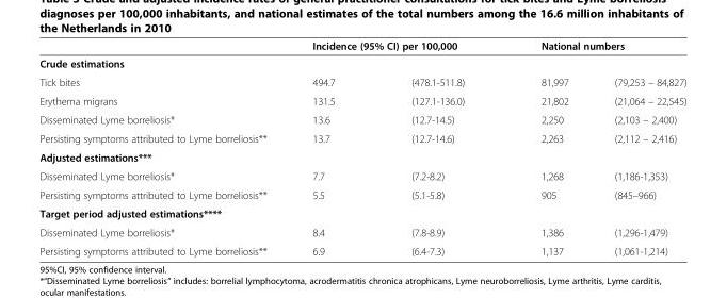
<table><thead><tr><td rowspan="2">Crude estimations</td><td colspan="2">Incidence (95% CI) per 100,000</td><td colspan="2">National numbers</td></tr><tr><td></td><td></td><td></td><td></td></tr></thead><tbody><tr><td>Tick bites</td><td>494.7</td><td>(478.1-511.8)</td><td>81,997</td><td>(79,253 – 84,827)</td></tr><tr><td>Erythema migrans</td><td>131.5</td><td>(127.1-136.0)</td><td>21,802</td><td>(21,064 – 22,545)</td></tr><tr><td>Disseminated Lyme borreliosis*</td><td>13.6</td><td>(12.7-14.5)</td><td>2,250</td><td>(2,103 – 2,400)</td></tr><tr><td>Persisting symptoms attributed to Lyme borreliosis**</td><td>13.7</td><td>(12.7-14.6)</td><td>2,263</td><td>(2,112 – 2,416)</td></tr><tr><td colspan="5">Adjusted estimations***</td></tr><tr><td>Disseminated Lyme borreliosis*</td><td>7.7</td><td>(7.2-8.2)</td><td>1,268</td><td>(1,186-1,353)</td></tr><tr><td>Persisting symptoms attributed to Lyme borreliosis**</td><td>5.5</td><td>(5.1-5.8)</td><td>905</td><td>(845–966)</td></tr><tr><td colspan="5">Target period adjusted estimations****</td></tr><tr><td>Disseminated Lyme borreliosis*</td><td>8.4</td><td>(7.8-8.9)</td><td>1,386</td><td>(1,296-1,479)</td></tr><tr><td>Persisting symptoms attributed to Lyme borreliosis**</td><td>6.9</td><td>(6.4-7.3)</td><td>1,137</td><td>(1,061-1,214)</td></tr></tbody></table>